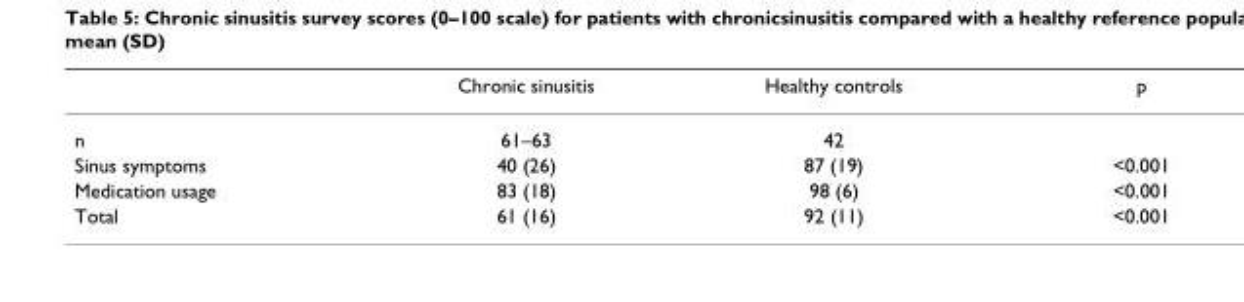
<table><thead><tr><td></td><td>Chronic sinusitis</td><td>Healthy controls</td><td>p</td></tr></thead><tbody><tr><td>n</td><td>61–63</td><td>42</td><td></td></tr><tr><td>Sinus symptoms</td><td>40 (26)</td><td>87 (19)</td><td>&lt;0.001</td></tr><tr><td>Medication usage</td><td>83 (18)</td><td>98 (6)</td><td>&lt;0.001</td></tr><tr><td>Total</td><td>61 (16)</td><td>92 (11)</td><td>&lt;0.001</td></tr></tbody></table>